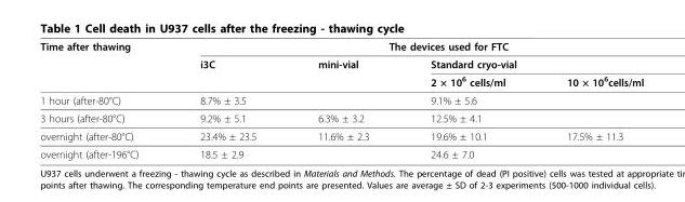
<table><thead><tr><td rowspan="3">Time after thawing</td><td colspan="4">The devices used for FTC</td></tr><tr><td rowspan="2">i3C</td><td rowspan="2">mini-vial</td><td colspan="2">Standard cryo-vial</td></tr><tr><td>2 × 10<sup>6</sup> cells/ml</td><td>10 × 10<sup>6</sup>cells/ml</td></tr></thead><tbody><tr><td>1 hour (after-80°C)</td><td>8.7% ± 3.5</td><td></td><td>9.1% ± 5.6</td><td></td></tr><tr><td>3 hours (after-80°C)</td><td>9.2% ± 5.1</td><td>6.3% ± 3.2</td><td>12.5% ± 4.1</td><td></td></tr><tr><td>overnight (after-80°C)</td><td>23.4% ± 23.5</td><td>11.6% ± 2.3</td><td>19.6% ± 10.1</td><td>17.5% ± 11.3</td></tr><tr><td>overnight (after-196°C)</td><td>18.5 ± 2.9</td><td></td><td>24.6 ± 7.0</td><td></td></tr></tbody></table>